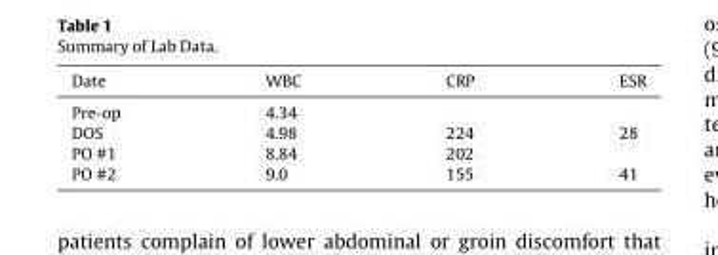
<table><thead><tr><td>Date</td><td>WBC</td><td>CRP</td><td>ESR</td></tr></thead><tbody><tr><td>Pre-op</td><td>4.34</td><td></td><td></td></tr><tr><td>DOS</td><td>4.98</td><td>224</td><td>28</td></tr><tr><td>PO #1</td><td>8.84</td><td>202</td><td></td></tr><tr><td>PO #2</td><td>9.0</td><td>155</td><td>41</td></tr></tbody></table>